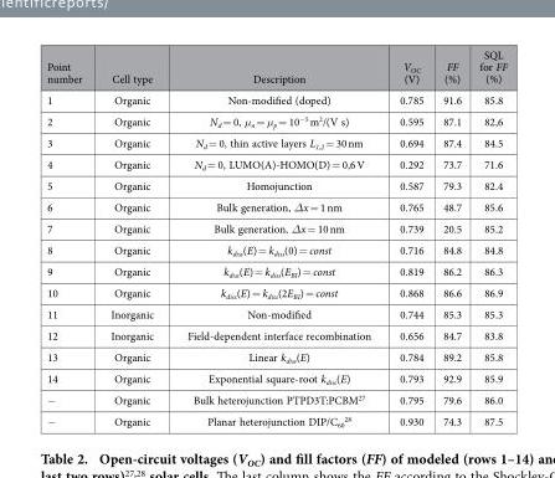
<table><thead><tr><td>Point number</td><td>Сell type</td><td>Description</td><td>V<sub>OC</sub> (V)</td><td>FF (%)</td><td>SQL for FF (%)</td></tr></thead><tbody><tr><td>1</td><td>Organic</td><td>Non-modified (doped)</td><td>0.785</td><td>91.6</td><td>85.8</td></tr><tr><td>2</td><td>Organic</td><td>N<sub>d</sub> = 0, μ<sub>n</sub> = μ<sub>p</sub> = 10<sup>−5</sup> m<sup>2</sup>/(V s)</td><td>0.595</td><td>87.1</td><td>82,6</td></tr><tr><td>3</td><td>Organic</td><td>N<sub>d</sub> = 0, thin active layers L<sub>1,2</sub> = 30 nm</td><td>0.694</td><td>87.4</td><td>84.5</td></tr><tr><td>4</td><td>Organic</td><td>N<sub>d</sub> = 0, LUMO(A)-HOMO(D) = 0,6 V</td><td>0.292</td><td>73.7</td><td>71.6</td></tr><tr><td>5</td><td>Organic</td><td>Homojunction</td><td>0.587</td><td>79.3</td><td>82.4</td></tr><tr><td>6</td><td>Organic</td><td>Bulk generation, Δx = 1 nm</td><td>0.765</td><td>48.7</td><td>85.6</td></tr><tr><td>7</td><td>Organic</td><td>Bulk generation, Δx = 10 nm</td><td>0.739</td><td>20.5</td><td>85.2</td></tr><tr><td>8</td><td>Organic</td><td>k<sub>diss</sub>(E) = k<sub>diss</sub>(0) = const</td><td>0.716</td><td>84.8</td><td>84.8</td></tr><tr><td>9</td><td>Organic</td><td>k<sub>diss</sub>(E) = k<sub>diss</sub>(E<sub>BI</sub>) = const</td><td>0.819</td><td>86.2</td><td>86.3</td></tr><tr><td>10</td><td>Organic</td><td>k<sub>diss</sub>(E) = k<sub>diss</sub>(2E<sub>BI</sub>) = const</td><td>0.868</td><td>86.6</td><td>86.9</td></tr><tr><td>11</td><td>Inorganic</td><td>Non-modified</td><td>0.744</td><td>85.3</td><td>85.3</td></tr><tr><td>12</td><td>Inorganic</td><td>Field-dependent interface recombination</td><td>0.656</td><td>84.7</td><td>83.8</td></tr><tr><td>13</td><td>Organic</td><td>Linear k<sub>diss</sub>(E)</td><td>0.784</td><td>89.2</td><td>85.8</td></tr><tr><td>14</td><td>Organic</td><td>Exponential square-root k<sub>diss</sub>(E)</td><td>0.793</td><td>92.9</td><td>85.9</td></tr><tr><td>−</td><td>Organic</td><td>Bulk heterojunction PTPD3T:PCBM<sup>27</sup></td><td>0.795</td><td>79.6</td><td>86.0</td></tr><tr><td>−</td><td>Organic</td><td>Planar heterojunction DIP/C<sub>60</sub> <sup>28</sup></td><td>0.930</td><td>74.3</td><td>87.5</td></tr></tbody></table>